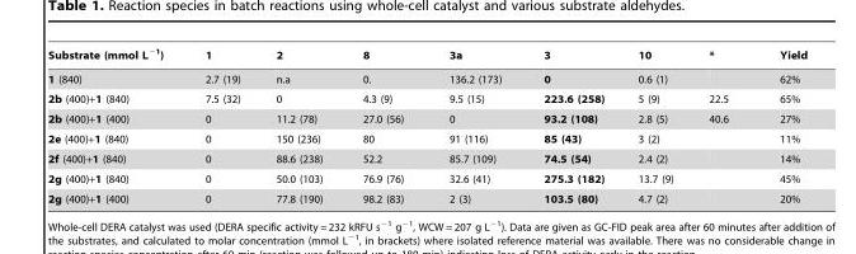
<table><thead><tr><td>Substrate (mmol L<sup>−1</sup>)</td><td>1</td><td>2</td><td>8</td><td>3a</td><td>3</td><td>10</td><td>*</td><td>Yield</td></tr></thead><tbody><tr><td>1 (840)</td><td>2.7 (19)</td><td>n.a</td><td>0.</td><td>136.2 (173)</td><td>0</td><td>0.6 (1)</td><td></td><td>62%</td></tr><tr><td>2b (400)+1 (840)</td><td>7.5 (32)</td><td>0</td><td>4.3 (9)</td><td>9.5 (15)</td><td>223.6 (258)</td><td>5 (9)</td><td>22.5</td><td>65%</td></tr><tr><td>2b (400)+1 (400)</td><td>0</td><td>11.2 (78)</td><td>27.0 (56)</td><td>0</td><td>93.2 (108)</td><td>2.8 (5)</td><td>40.6</td><td>27%</td></tr><tr><td>2e (400)+1 (840)</td><td>0</td><td>150 (236)</td><td>80</td><td>91 (116)</td><td>85 (43)</td><td>3 (2)</td><td></td><td>11%</td></tr><tr><td>2f (400)+1 (840)</td><td>0</td><td>88.6 (238)</td><td>52.2</td><td>85.7 (109)</td><td>74.5 (54)</td><td>2.4 (2)</td><td></td><td>14%</td></tr><tr><td>2g (400)+1 (840)</td><td>0</td><td>50.0 (103)</td><td>76.9 (76)</td><td>32.6 (41)</td><td>275.3 (182)</td><td>13.7 (9)</td><td></td><td>45%</td></tr><tr><td>2g (400)+1 (400)</td><td>0</td><td>77.8 (190)</td><td>98.2 (83)</td><td>2 (3)</td><td>103.5 (80)</td><td>4.7 (2)</td><td></td><td>20%</td></tr></tbody></table>